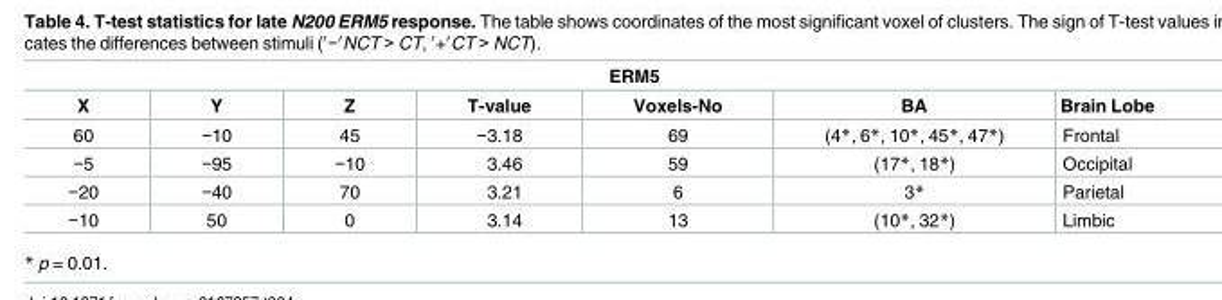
<table><thead><tr><td colspan="7">ERM5</td></tr><tr><td>X</td><td>Y</td><td>Z</td><td>T-value</td><td>Voxels-No</td><td>BA</td><td>Brain Lobe</td></tr></thead><tbody><tr><td>60</td><td>−10</td><td>45</td><td>−3.18</td><td>69</td><td>(4*, 6*, 10*, 45*, 47*)</td><td>Frontal</td></tr><tr><td>−5</td><td>−95</td><td>−10</td><td>3.46</td><td>59</td><td>(17*, 18*)</td><td>Occipital</td></tr><tr><td>−20</td><td>−40</td><td>70</td><td>3.21</td><td>6</td><td>3*</td><td>Parietal</td></tr><tr><td>−10</td><td>50</td><td>0</td><td>3.14</td><td>13</td><td>(10*, 32*)</td><td>Limbic</td></tr></tbody></table>